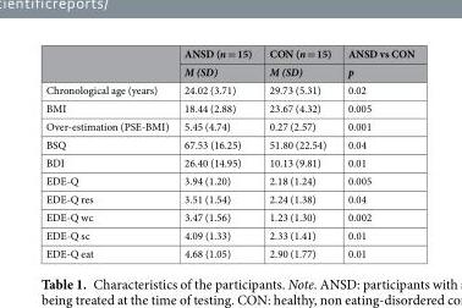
<table><thead><tr><td rowspan="2"></td><td rowspan="2">ANSD (n = 15) M (SD)</td><td rowspan="2">CON (n = 15) M (SD)</td><td rowspan="2">ANSD vs CON p</td></tr><tr></tr></thead><tbody><tr><td>Chronological age (years)</td><td>24.02 (3.71)</td><td>29.73 (5.31)</td><td>0.02</td></tr><tr><td>BMI</td><td>18.44 (2.88)</td><td>23.67 (4.32)</td><td>0.005</td></tr><tr><td>Over-estimation (PSE-BMI)</td><td>5.45 (4.74)</td><td>0.27 (2.57)</td><td>0.001</td></tr><tr><td>BSQ</td><td>67.53 (16.25)</td><td>51.80 (22.54)</td><td>0.04</td></tr><tr><td>BDI</td><td>26.40 (14.95)</td><td>10.13 (9.81)</td><td>0.01</td></tr><tr><td>EDE-Q</td><td>3.94 (1.20)</td><td>2.18 (1.24)</td><td>0.005</td></tr><tr><td>EDE-Q res</td><td>3.51 (1.54)</td><td>2.24 (1.38)</td><td>0.04</td></tr><tr><td>EDE-Q wc</td><td>3.47 (1.56)</td><td>1.23 (1.30)</td><td>0.002</td></tr><tr><td>EDE-Q sc</td><td>4.09 (1.33)</td><td>2.33 (1.41)</td><td>0.01</td></tr><tr><td>EDE-Q eat</td><td>4.68 (1.05)</td><td>2.90 (1.77)</td><td>0.01</td></tr></tbody></table>